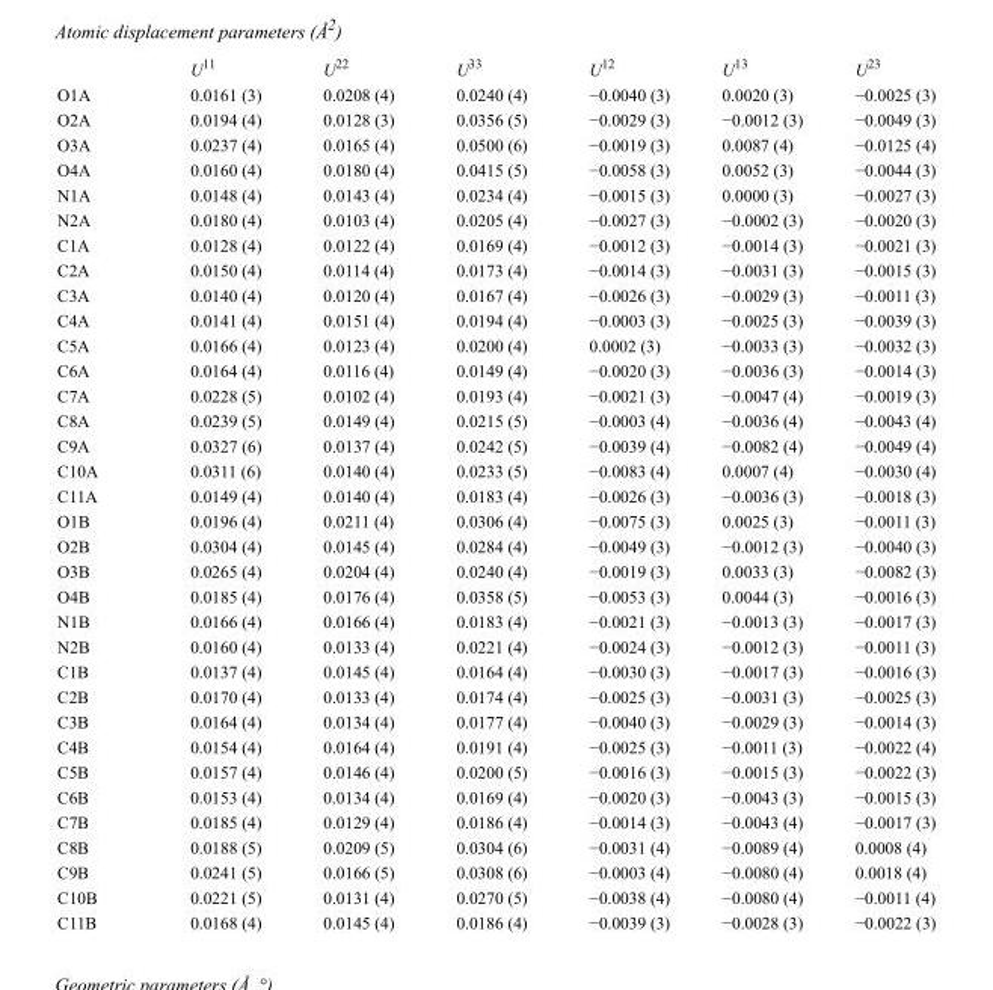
<table><thead><tr><td></td><td>U<sup>11</sup></td><td>U<sup>22</sup></td><td>U<sup>33</sup></td><td>U<sup>12</sup></td><td>U<sup>13</sup></td><td>U<sup>23</sup></td></tr></thead><tbody><tr><td>O1A</td><td>0.0161 (3)</td><td>0.0208 (4)</td><td>0.0240 (4)</td><td>−0.0040 (3)</td><td>0.0020 (3)</td><td>−0.0025 (3)</td></tr><tr><td>O2A</td><td>0.0194 (4)</td><td>0.0128 (3)</td><td>0.0356 (5)</td><td>−0.0029 (3)</td><td>−0.0012 (3)</td><td>−0.0049 (3)</td></tr><tr><td>O3A</td><td>0.0237 (4)</td><td>0.0165 (4)</td><td>0.0500 (6)</td><td>−0.0019 (3)</td><td>0.0087 (4)</td><td>−0.0125 (4)</td></tr><tr><td>O4A</td><td>0.0160 (4)</td><td>0.0180 (4)</td><td>0.0415 (5)</td><td>−0.0058 (3)</td><td>0.0052 (3)</td><td>−0.0044 (3)</td></tr><tr><td>N1A</td><td>0.0148 (4)</td><td>0.0143 (4)</td><td>0.0234 (4)</td><td>−0.0015 (3)</td><td>0.0000 (3)</td><td>−0.0027 (3)</td></tr><tr><td>N2A</td><td>0.0180 (4)</td><td>0.0103 (4)</td><td>0.0205 (4)</td><td>−0.0027 (3)</td><td>−0.0002 (3)</td><td>−0.0020 (3)</td></tr><tr><td>C1A</td><td>0.0128 (4)</td><td>0.0122 (4)</td><td>0.0169 (4)</td><td>−0.0012 (3)</td><td>−0.0014 (3)</td><td>−0.0021 (3)</td></tr><tr><td>C2A</td><td>0.0150 (4)</td><td>0.0114 (4)</td><td>0.0173 (4)</td><td>−0.0014 (3)</td><td>−0.0031 (3)</td><td>−0.0015 (3)</td></tr><tr><td>C3A</td><td>0.0140 (4)</td><td>0.0120 (4)</td><td>0.0167 (4)</td><td>−0.0026 (3)</td><td>−0.0029 (3)</td><td>−0.0011 (3)</td></tr><tr><td>C4A</td><td>0.0141 (4)</td><td>0.0151 (4)</td><td>0.0194 (4)</td><td>−0.0003 (3)</td><td>−0.0025 (3)</td><td>−0.0039 (3)</td></tr><tr><td>C5A</td><td>0.0166 (4)</td><td>0.0123 (4)</td><td>0.0200 (4)</td><td>0.0002 (3)</td><td>−0.0033 (3)</td><td>−0.0032 (3)</td></tr><tr><td>C6A</td><td>0.0164 (4)</td><td>0.0116 (4)</td><td>0.0149 (4)</td><td>−0.0020 (3)</td><td>−0.0036 (3)</td><td>−0.0014 (3)</td></tr><tr><td>C7A</td><td>0.0228 (5)</td><td>0.0102 (4)</td><td>0.0193 (4)</td><td>−0.0021 (3)</td><td>−0.0047 (4)</td><td>−0.0019 (3)</td></tr><tr><td>C8A</td><td>0.0239 (5)</td><td>0.0149 (4)</td><td>0.0215 (5)</td><td>−0.0003 (4)</td><td>−0.0036 (4)</td><td>−0.0043 (4)</td></tr><tr><td>C9A</td><td>0.0327 (6)</td><td>0.0137 (4)</td><td>0.0242 (5)</td><td>−0.0039 (4)</td><td>−0.0082 (4)</td><td>−0.0049 (4)</td></tr><tr><td>C10A</td><td>0.0311 (6)</td><td>0.0140 (4)</td><td>0.0233 (5)</td><td>−0.0083 (4)</td><td>0.0007 (4)</td><td>−0.0030 (4)</td></tr><tr><td>C11A</td><td>0.0149 (4)</td><td>0.0140 (4)</td><td>0.0183 (4)</td><td>−0.0026 (3)</td><td>−0.0036 (3)</td><td>−0.0018 (3)</td></tr><tr><td>O1B</td><td>0.0196 (4)</td><td>0.0211 (4)</td><td>0.0306 (4)</td><td>−0.0075 (3)</td><td>0.0025 (3)</td><td>−0.0011 (3)</td></tr><tr><td>O2B</td><td>0.0304 (4)</td><td>0.0145 (4)</td><td>0.0284 (4)</td><td>−0.0049 (3)</td><td>−0.0012 (3)</td><td>−0.0040 (3)</td></tr><tr><td>O3B</td><td>0.0265 (4)</td><td>0.0204 (4)</td><td>0.0240 (4)</td><td>−0.0019 (3)</td><td>0.0033 (3)</td><td>−0.0082 (3)</td></tr><tr><td>O4B</td><td>0.0185 (4)</td><td>0.0176 (4)</td><td>0.0358 (5)</td><td>−0.0053 (3)</td><td>0.0044 (3)</td><td>−0.0016 (3)</td></tr><tr><td>N1B</td><td>0.0166 (4)</td><td>0.0166 (4)</td><td>0.0183 (4)</td><td>−0.0021 (3)</td><td>−0.0013 (3)</td><td>−0.0017 (3)</td></tr><tr><td>N2B</td><td>0.0160 (4)</td><td>0.0133 (4)</td><td>0.0221 (4)</td><td>−0.0024 (3)</td><td>−0.0012 (3)</td><td>−0.0011 (3)</td></tr><tr><td>C1B</td><td>0.0137 (4)</td><td>0.0145 (4)</td><td>0.0164 (4)</td><td>−0.0030 (3)</td><td>−0.0017 (3)</td><td>−0.0016 (3)</td></tr><tr><td>C2B</td><td>0.0170 (4)</td><td>0.0133 (4)</td><td>0.0174 (4)</td><td>−0.0025 (3)</td><td>−0.0031 (3)</td><td>−0.0025 (3)</td></tr><tr><td>C3B</td><td>0.0164 (4)</td><td>0.0134 (4)</td><td>0.0177 (4)</td><td>−0.0040 (3)</td><td>−0.0029 (3)</td><td>−0.0014 (3)</td></tr><tr><td>C4B</td><td>0.0154 (4)</td><td>0.0164 (4)</td><td>0.0191 (4)</td><td>−0.0025 (3)</td><td>−0.0011 (3)</td><td>−0.0022 (4)</td></tr><tr><td>C5B</td><td>0.0157 (4)</td><td>0.0146 (4)</td><td>0.0200 (5)</td><td>−0.0016 (3)</td><td>−0.0015 (3)</td><td>−0.0022 (3)</td></tr><tr><td>C6B</td><td>0.0153 (4)</td><td>0.0134 (4)</td><td>0.0169 (4)</td><td>−0.0020 (3)</td><td>−0.0043 (3)</td><td>−0.0015 (3)</td></tr><tr><td>C7B</td><td>0.0185 (4)</td><td>0.0129 (4)</td><td>0.0186 (4)</td><td>−0.0014 (3)</td><td>−0.0043 (4)</td><td>−0.0017 (3)</td></tr><tr><td>C8B</td><td>0.0188 (5)</td><td>0.0209 (5)</td><td>0.0304 (6)</td><td>−0.0031 (4)</td><td>−0.0089 (4)</td><td>0.0008 (4)</td></tr><tr><td>C9B</td><td>0.0241 (5)</td><td>0.0166 (5)</td><td>0.0308 (6)</td><td>−0.0003 (4)</td><td>−0.0080 (4)</td><td>0.0018 (4)</td></tr><tr><td>C10B</td><td>0.0221 (5)</td><td>0.0131 (4)</td><td>0.0270 (5)</td><td>−0.0038 (4)</td><td>−0.0080 (4)</td><td>−0.0011 (4)</td></tr><tr><td>C11B</td><td>0.0168 (4)</td><td>0.0145 (4)</td><td>0.0186 (4)</td><td>−0.0039 (3)</td><td>−0.0028 (3)</td><td>−0.0022 (3)</td></tr></tbody></table>